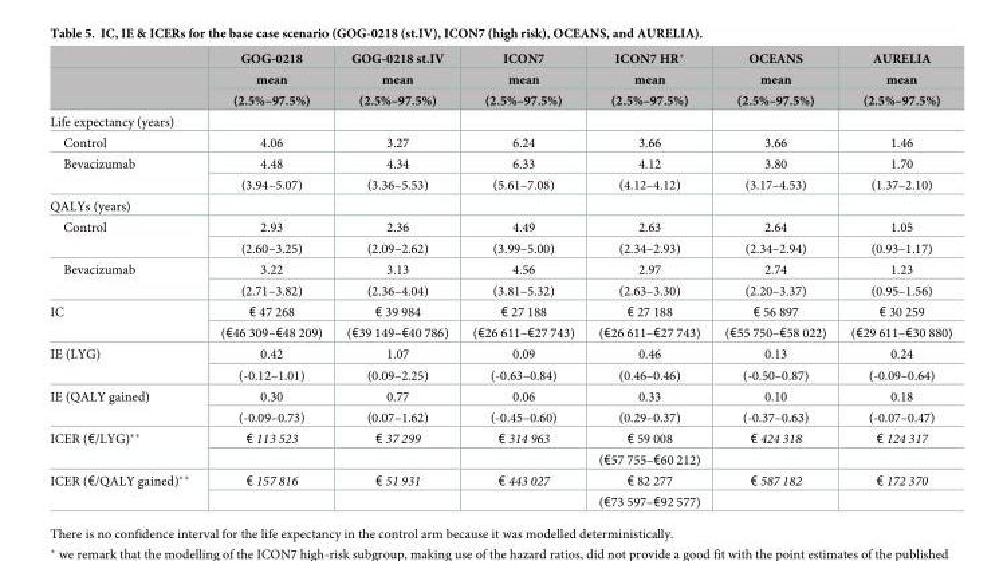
<table><thead><tr><td rowspan="3"></td><td rowspan="3">GOG-0218 mean (2.5%–97.5%)</td><td rowspan="3">GOG-0218 st.IV mean (2.5%–97.5%)</td><td rowspan="3">ICON7 mean (2.5%–97.5%)</td><td rowspan="3">ICON7 HR* mean (2.5%–97.5%)</td><td rowspan="3">OCEANS mean (2.5%–97.5%)</td><td rowspan="3">AURELIA mean (2.5%–97.5%)</td></tr><tr></tr><tr></tr></thead><tbody><tr><td colspan="7">Life expectancy (years)</td></tr><tr><td>Control</td><td>4.06</td><td>3.27</td><td>6.24</td><td>3.66</td><td>3.66</td><td>1.46</td></tr><tr><td rowspan="2">Bevacizumab</td><td>4.48</td><td>4.34</td><td>6.33</td><td>4.12</td><td>3.80</td><td>1.70</td></tr><tr><td>(3.94–5.07)</td><td>(3.36–5.53)</td><td>(5.61–7.08)</td><td>(4.12–4.12)</td><td>(3.17–4.53)</td><td>(1.37–2.10)</td></tr><tr><td colspan="7">QALYs (years)</td></tr><tr><td rowspan="2">Control</td><td>2.93</td><td>2.36</td><td>4.49</td><td>2.63</td><td>2.64</td><td>1.05</td></tr><tr><td>(2.60–3.25)</td><td>(2.09–2.62)</td><td>(3.99–5.00)</td><td>(2.34–2.93)</td><td>(2.34–2.94)</td><td>(0.93–1.17)</td></tr><tr><td rowspan="2">Bevacizumab</td><td>3.22</td><td>3.13</td><td>4.56</td><td>2.97</td><td>2.74</td><td>1.23</td></tr><tr><td>(2.71–3.82)</td><td>(2.36–4.04)</td><td>(3.81–5.32)</td><td>(2.63–3.30)</td><td>(2.20–3.37)</td><td>(0.95–1.56)</td></tr><tr><td rowspan="2">IC</td><td>€ 47 268</td><td>€ 39 984</td><td>€ 27 188</td><td>€ 27 188</td><td>€ 56 897</td><td>€ 30 259</td></tr><tr><td>(€46 309–€48 209)</td><td>(€39 149–€40 786)</td><td>(€26 611–€27 743)</td><td>(€26 611–€27 743)</td><td>(€55 750–€58 022)</td><td>(€29 611–€30 880)</td></tr><tr><td rowspan="2">IE (LYG)</td><td>0.42</td><td>1.07</td><td>0.09</td><td>0.46</td><td>0.13</td><td>0.24</td></tr><tr><td>(-0.12–1.01)</td><td>(0.09–2.25)</td><td>(-0.63–0.84)</td><td>(0.46–0.46)</td><td>(-0.50–0.87)</td><td>(-0.09–0.64)</td></tr><tr><td rowspan="2">IE (QALY gained)</td><td>0.30</td><td>0.77</td><td>0.06</td><td>0.33</td><td>0.10</td><td>0.18</td></tr><tr><td>(-0.09–0.73)</td><td>(0.07–1.62)</td><td>(-0.45–0.60)</td><td>(0.29–0.37)</td><td>(-0.37–0.63)</td><td>(-0.07–0.47)</td></tr><tr><td rowspan="2">ICER (€/LYG)**</td><td>€ 113 523</td><td>€ 37 299</td><td>€ 314 963</td><td>€ 59 008</td><td>€ 424 318</td><td>€ 124 317</td></tr><tr><td></td><td></td><td></td><td>(€57 755–€60 212)</td><td></td><td></td></tr><tr><td rowspan="2">ICER (€/QALY gained)**</td><td>€ 157 816</td><td>€ 51 931</td><td>€ 443 027</td><td>€ 82 277</td><td>€ 587 182</td><td>€ 172 370</td></tr><tr><td></td><td></td><td></td><td>(€73 597–€92 577)</td><td></td><td></td></tr></tbody></table>